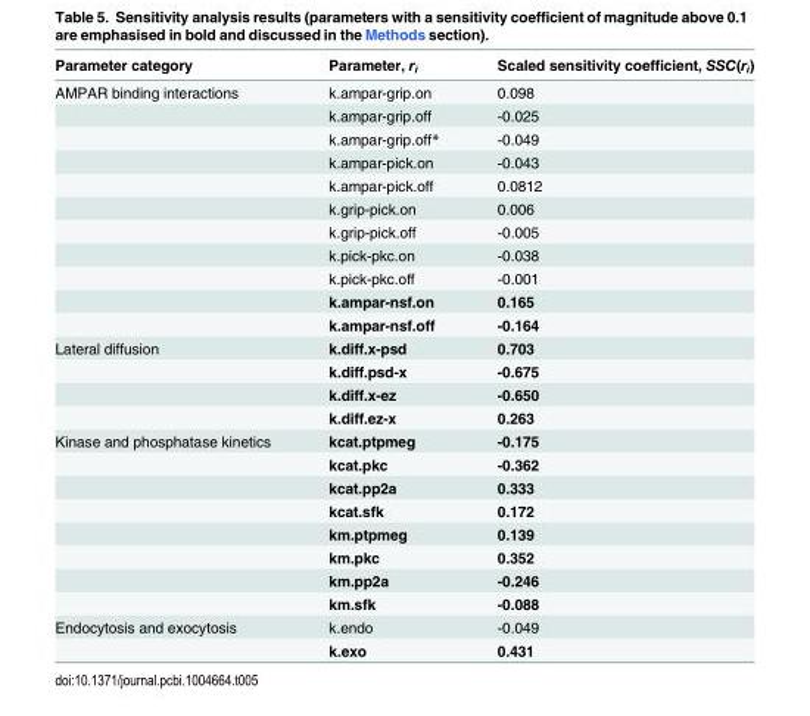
<table><thead><tr><td>Parameter category</td><td>Parameter, r<sub>i</sub></td><td>Scaled sensitivity coefficient, SSC(r<sub>i</sub>)</td></tr></thead><tbody><tr><td rowspan="11">AMPAR binding interactions</td><td>k.ampar-grip.on</td><td>0.098</td></tr><tr><td>k.ampar-grip.off</td><td>-0.025</td></tr><tr><td>k.ampar-grip.off*</td><td>-0.049</td></tr><tr><td>k.ampar-pick.on</td><td>-0.043</td></tr><tr><td>k.ampar-pick.off</td><td>0.0812</td></tr><tr><td>k.grip-pick.on</td><td>0.006</td></tr><tr><td>k.grip-pick.off</td><td>-0.005</td></tr><tr><td>k.pick-pkc.on</td><td>-0.038</td></tr><tr><td>k.pick-pkc.off</td><td>-0.001</td></tr><tr><td>k.ampar-nsf.on</td><td>0.165</td></tr><tr><td>k.ampar-nsf.off</td><td>-0.164</td></tr><tr><td rowspan="4">Lateral diffusion</td><td>k.diff.x-psd</td><td>0.703</td></tr><tr><td>k.diff.psd-x</td><td>-0.675</td></tr><tr><td>k.diff.x-ez</td><td>-0.650</td></tr><tr><td>k.diff.ez-x</td><td>0.263</td></tr><tr><td rowspan="8">Kinase and phosphatase kinetics</td><td>kcat.ptpmeg</td><td>-0.175</td></tr><tr><td>kcat.pkc</td><td>-0.362</td></tr><tr><td>kcat.pp2a</td><td>0.333</td></tr><tr><td>kcat.sfk</td><td>0.172</td></tr><tr><td>km.ptpmeg</td><td>0.139</td></tr><tr><td>km.pkc</td><td>0.352</td></tr><tr><td>km.pp2a</td><td>-0.246</td></tr><tr><td>km.sfk</td><td>-0.088</td></tr><tr><td rowspan="2">Endocytosis and exocytosis</td><td>k.endo</td><td>-0.049</td></tr><tr><td>k.exo</td><td>0.431</td></tr></tbody></table>